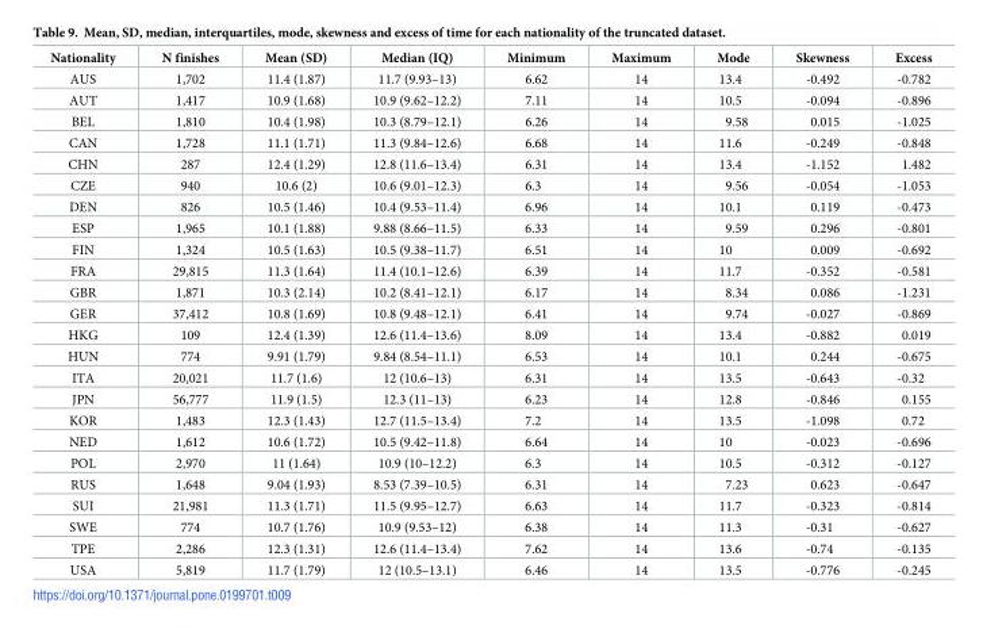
<table><thead><tr><td>Nationality</td><td>N finishes</td><td>Mean (SD)</td><td>Median (IQ)</td><td>Minimum</td><td>Maximum</td><td>Mode</td><td>Skewness</td><td>Excess</td></tr></thead><tbody><tr><td>AUS</td><td>1,702</td><td>11.4 (1.87)</td><td>11.7 (9.93–13)</td><td>6.62</td><td>14</td><td>13.4</td><td>-0.492</td><td>-0.782</td></tr><tr><td>AUT</td><td>1,417</td><td>10.9 (1.68)</td><td>10.9 (9.62–12.2)</td><td>7.11</td><td>14</td><td>10.5</td><td>-0.094</td><td>-0.896</td></tr><tr><td>BEL</td><td>1,810</td><td>10.4 (1.98)</td><td>10.3 (8.79–12.1)</td><td>6.26</td><td>14</td><td>9.58</td><td>0.015</td><td>-1.025</td></tr><tr><td>CAN</td><td>1,728</td><td>11.1 (1.71)</td><td>11.3 (9.84–12.6)</td><td>6.68</td><td>14</td><td>11.6</td><td>-0.249</td><td>-0.848</td></tr><tr><td>CHN</td><td>287</td><td>12.4 (1.29)</td><td>12.8 (11.6–13.4)</td><td>6.31</td><td>14</td><td>13.4</td><td>-1.152</td><td>1.482</td></tr><tr><td>CZE</td><td>940</td><td>10.6 (2)</td><td>10.6 (9.01–12.3)</td><td>6.3</td><td>14</td><td>9.56</td><td>-0.054</td><td>-1.053</td></tr><tr><td>DEN</td><td>826</td><td>10.5 (1.46)</td><td>10.4 (9.53–11.4)</td><td>6.96</td><td>14</td><td>10.1</td><td>0.119</td><td>-0.473</td></tr><tr><td>ESP</td><td>1,965</td><td>10.1 (1.88)</td><td>9.88 (8.66–11.5)</td><td>6.33</td><td>14</td><td>9.59</td><td>0.296</td><td>-0.801</td></tr><tr><td>FIN</td><td>1,324</td><td>10.5 (1.63)</td><td>10.5 (9.38–11.7)</td><td>6.51</td><td>14</td><td>10</td><td>0.009</td><td>-0.692</td></tr><tr><td>FRA</td><td>29,815</td><td>11.3 (1.64)</td><td>11.4 (10.1–12.6)</td><td>6.39</td><td>14</td><td>11.7</td><td>-0.352</td><td>-0.581</td></tr><tr><td>GBR</td><td>1,871</td><td>10.3 (2.14)</td><td>10.2 (8.41–12.1)</td><td>6.17</td><td>14</td><td>8.34</td><td>0.086</td><td>-1.231</td></tr><tr><td>GER</td><td>37,412</td><td>10.8 (1.69)</td><td>10.8 (9.48–12.1)</td><td>6.41</td><td>14</td><td>9.74</td><td>-0.027</td><td>-0.869</td></tr><tr><td>HKG</td><td>109</td><td>12.4 (1.39)</td><td>12.6 (11.4–13.6)</td><td>8.09</td><td>14</td><td>13.4</td><td>-0.882</td><td>0.019</td></tr><tr><td>HUN</td><td>774</td><td>9.91 (1.79)</td><td>9.84 (8.54–11.1)</td><td>6.53</td><td>14</td><td>10.1</td><td>0.244</td><td>-0.675</td></tr><tr><td>ITA</td><td>20,021</td><td>11.7 (1.6)</td><td>12 (10.6–13)</td><td>6.31</td><td>14</td><td>13.5</td><td>-0.643</td><td>-0.32</td></tr><tr><td>JPN</td><td>56,777</td><td>11.9 (1.5)</td><td>12.3 (11–13)</td><td>6.23</td><td>14</td><td>12.8</td><td>-0.846</td><td>0.155</td></tr><tr><td>KOR</td><td>1,483</td><td>12.3 (1.43)</td><td>12.7 (11.5–13.4)</td><td>7.2</td><td>14</td><td>13.5</td><td>-1.098</td><td>0.72</td></tr><tr><td>NED</td><td>1,612</td><td>10.6 (1.72)</td><td>10.5 (9.42–11.8)</td><td>6.64</td><td>14</td><td>10</td><td>-0.023</td><td>-0.696</td></tr><tr><td>POL</td><td>2,970</td><td>11 (1.64)</td><td>10.9 (10–12.2)</td><td>6.3</td><td>14</td><td>10.5</td><td>-0.312</td><td>-0.127</td></tr><tr><td>RUS</td><td>1,648</td><td>9.04 (1.93)</td><td>8.53 (7.39–10.5)</td><td>6.31</td><td>14</td><td>7.23</td><td>0.623</td><td>-0.647</td></tr><tr><td>SUI</td><td>21,981</td><td>11.3 (1.71)</td><td>11.5 (9.95–12.7)</td><td>6.63</td><td>14</td><td>11.7</td><td>-0.323</td><td>-0.814</td></tr><tr><td>SWE</td><td>774</td><td>10.7 (1.76)</td><td>10.9 (9.53–12)</td><td>6.38</td><td>14</td><td>11.3</td><td>-0.31</td><td>-0.627</td></tr><tr><td>TPE</td><td>2,286</td><td>12.3 (1.31)</td><td>12.6 (11.4–13.4)</td><td>7.62</td><td>14</td><td>13.6</td><td>-0.74</td><td>-0.135</td></tr><tr><td>USA</td><td>5,819</td><td>11.7 (1.79)</td><td>12 (10.5–13.1)</td><td>6.46</td><td>14</td><td>13.5</td><td>-0.776</td><td>-0.245</td></tr></tbody></table>